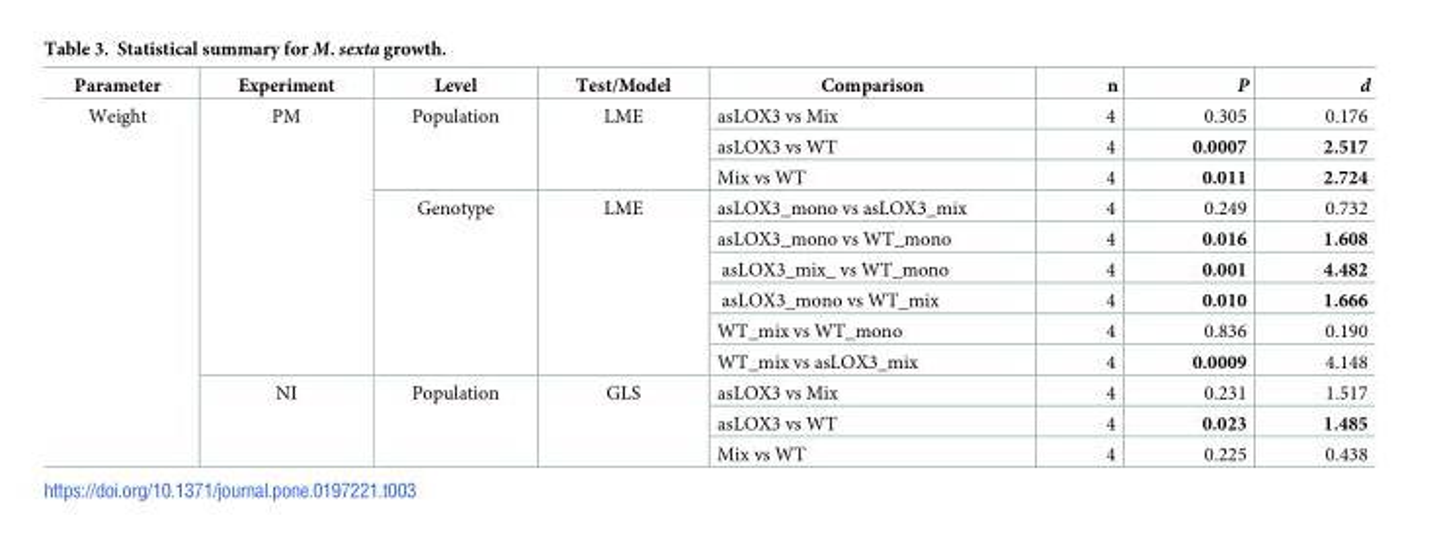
<table><thead><tr><td>Parameter</td><td>Experiment</td><td>Level</td><td>Test/Model</td><td>Comparison</td><td>n</td><td>P</td><td>d</td></tr></thead><tbody><tr><td rowspan="12">Weight</td><td rowspan="9">PM</td><td rowspan="3">Population</td><td rowspan="3">LME</td><td>asLOX3 vs Mix</td><td>4</td><td>0.305</td><td>0.176</td></tr><tr><td>asLOX3 vs WT</td><td>4</td><td>0.0007</td><td>2.517</td></tr><tr><td>Mix vs WT</td><td>4</td><td>0.011</td><td>2.724</td></tr><tr><td rowspan="6">Genotype</td><td rowspan="6">LME</td><td>asLOX3_mono vs asLOX3_mix</td><td>4</td><td>0.249</td><td>0.732</td></tr><tr><td>asLOX3_mono vs WT_mono</td><td>4</td><td>0.016</td><td>1.608</td></tr><tr><td>asLOX3_mix_ vs WT_mono</td><td>4</td><td>0.001</td><td>4.482</td></tr><tr><td>asLOX3_mono vs WT_mix</td><td>4</td><td>0.010</td><td>1.666</td></tr><tr><td>WT_mix vs WT_mono</td><td>4</td><td>0.836</td><td>0.190</td></tr><tr><td>WT_mix vs asLOX3_mix</td><td>4</td><td>0.0009</td><td>4.148</td></tr><tr><td rowspan="3">NI</td><td rowspan="3">Population</td><td rowspan="3">GLS</td><td>asLOX3 vs Mix</td><td>4</td><td>0.231</td><td>1.517</td></tr><tr><td>asLOX3 vs WT</td><td>4</td><td>0.023</td><td>1.485</td></tr><tr><td>Mix vs WT</td><td>4</td><td>0.225</td><td>0.438</td></tr></tbody></table>